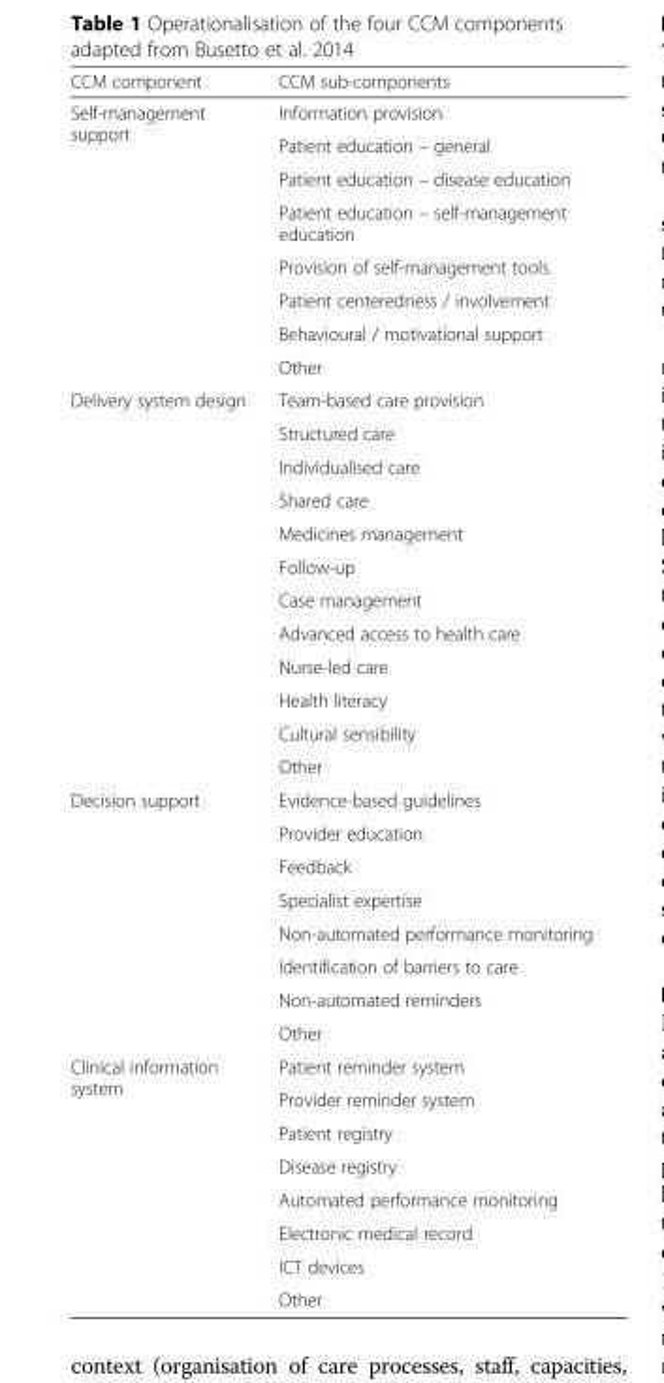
<table><thead><tr><td>CCM component</td><td>CCM sub-components</td></tr></thead><tbody><tr><td rowspan="8">Self-management support</td><td>Information provision</td></tr><tr><td>Patient education – general</td></tr><tr><td>Patient education – disease education</td></tr><tr><td>Patient education – self-management education</td></tr><tr><td>Provision of self-management tools</td></tr><tr><td>Patient centeredness / involvement</td></tr><tr><td>Behavioural / motivational support</td></tr><tr><td>Other</td></tr><tr><td rowspan="12">Delivery system design</td><td>Team-based care provision</td></tr><tr><td>Structured care</td></tr><tr><td>Individualised care</td></tr><tr><td>Shared care</td></tr><tr><td>Medicines management</td></tr><tr><td>Follow-up</td></tr><tr><td>Case management</td></tr><tr><td>Advanced access to health care</td></tr><tr><td>Nurse-led care</td></tr><tr><td>Health literacy</td></tr><tr><td>Cultural sensibility</td></tr><tr><td>Other</td></tr><tr><td rowspan="8">Decision support</td><td>Evidence-based guidelines</td></tr><tr><td>Provider education</td></tr><tr><td>Feedback</td></tr><tr><td>Specialist expertise</td></tr><tr><td>Non-automated performance monitoring</td></tr><tr><td>Identification of barriers to care</td></tr><tr><td>Non-automated reminders</td></tr><tr><td>Other</td></tr><tr><td rowspan="8">Clinical information system</td><td>Patient reminder system</td></tr><tr><td>Provider reminder system</td></tr><tr><td>Patient registry</td></tr><tr><td>Disease registry</td></tr><tr><td>Automated performance monitoring</td></tr><tr><td>Electronic medical record</td></tr><tr><td>ICT devices</td></tr><tr><td>Other</td></tr></tbody></table>